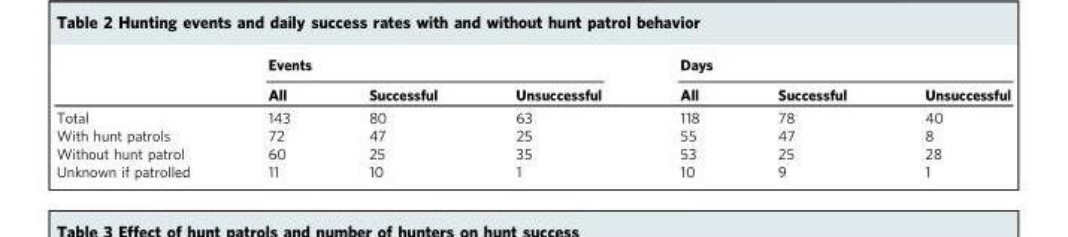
<table><thead><tr><td rowspan="2"></td><td colspan="3">Events</td><td colspan="3">Days</td></tr><tr><td>All</td><td>Successful</td><td>Unsuccessful</td><td>All</td><td>Successful</td><td>Unsuccessful</td></tr></thead><tbody><tr><td>Total</td><td>143</td><td>80</td><td>63</td><td>118</td><td>78</td><td>40</td></tr><tr><td>With hunt patrols</td><td>72</td><td>47</td><td>25</td><td>55</td><td>47</td><td>8</td></tr><tr><td>Without hunt patrol</td><td>60</td><td>25</td><td>35</td><td>53</td><td>25</td><td>28</td></tr><tr><td>Unknown if patrolled</td><td>11</td><td>10</td><td>1</td><td>10</td><td>9</td><td>1</td></tr></tbody></table>